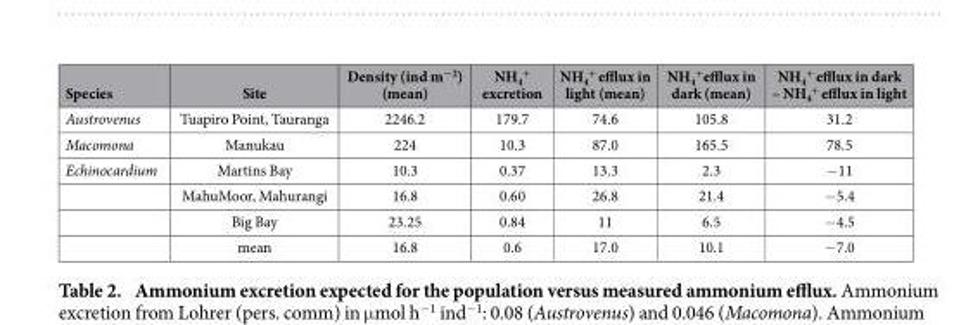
<table><thead><tr><td>Species</td><td>Site</td><td>Density (ind m<sup>−2</sup>) (mean)</td><td>NH<sub>4</sub> <sup>+</sup> excretion</td><td>NH<sub>4</sub> <sup>+</sup> efflux in light (mean)</td><td>NH<sub>4</sub> <sup>+</sup>efflux in dark (mean)</td><td>NH<sub>4</sub> <sup>+</sup> efflux in dark – NH<sub>4</sub> <sup>+</sup> efflux in light</td></tr></thead><tbody><tr><td>Austrovenus</td><td>Tuapiro Point, Tauranga</td><td>2246.2</td><td>179.7</td><td>74.6</td><td>105.8</td><td>31.2</td></tr><tr><td>Macomona</td><td>Manukau</td><td>224</td><td>10.3</td><td>87.0</td><td>165.5</td><td>78.5</td></tr><tr><td rowspan="4">Echinocardium</td><td>Martins Bay</td><td>10.3</td><td>0.37</td><td>13.3</td><td>2.3</td><td>− 11</td></tr><tr><td>MahuMoor, Mahurangi</td><td>16.8</td><td>0.60</td><td>26.8</td><td>21.4</td><td>− 5.4</td></tr><tr><td>Big Bay</td><td>23.25</td><td>0.84</td><td>11</td><td>6.5</td><td>− 4.5</td></tr><tr><td>mean</td><td>16.8</td><td>0.6</td><td>17.0</td><td>10.1</td><td>− 7.0</td></tr></tbody></table>